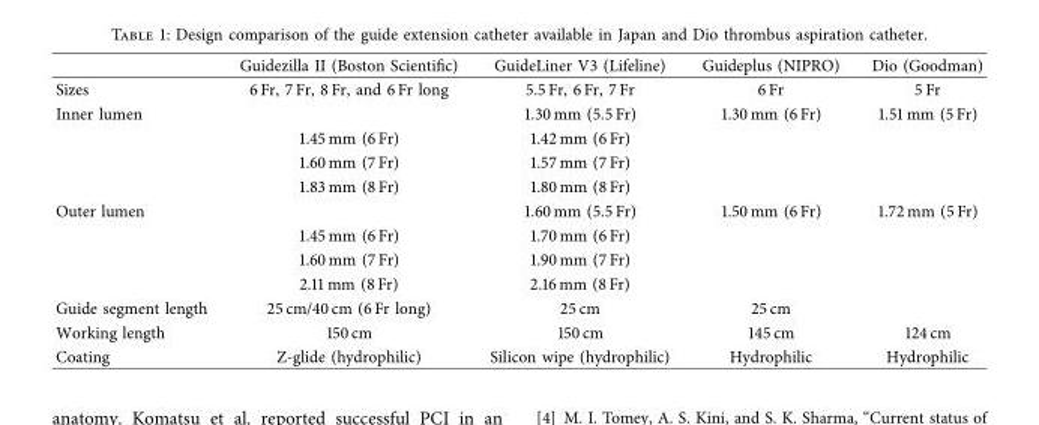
<table><thead><tr><td></td><td>Guidezilla II (Boston Scientifc)</td><td>GuideLiner V3 (Lifeline)</td><td>Guideplus (NIPRO)</td><td>Dio (Goodman)</td></tr></thead><tbody><tr><td>Sizes</td><td>6 Fr, 7 Fr, 8 Fr, and 6 Fr long</td><td>5.5 Fr, 6 Fr, 7 Fr</td><td>6 Fr</td><td>5 Fr</td></tr><tr><td rowspan="4">Inner lumen</td><td></td><td>1.30 mm (5.5 Fr)</td><td>1.30 mm (6 Fr)</td><td>1.51 mm (5 Fr)</td></tr><tr><td>1.45 mm (6 Fr)</td><td>1.42 mm (6 Fr)</td><td></td><td></td></tr><tr><td>1.60 mm (7 Fr)</td><td>1.57 mm (7 Fr)</td><td></td><td></td></tr><tr><td>1.83 mm (8 Fr)</td><td>1.80 mm (8 Fr)</td><td></td><td></td></tr><tr><td rowspan="4">Outer lumen</td><td></td><td>1.60 mm (5.5 Fr)</td><td>1.50 mm (6 Fr)</td><td>1.72 mm (5 Fr)</td></tr><tr><td>1.45 mm (6 Fr)</td><td>1.70 mm (6 Fr)</td><td></td><td></td></tr><tr><td>1.60 mm (7 Fr)</td><td>1.90 mm (7 Fr)</td><td></td><td></td></tr><tr><td>2.11 mm (8 Fr)</td><td>2.16 mm (8 Fr)</td><td></td><td></td></tr><tr><td>Guide segment length</td><td>25 cm/40 cm (6 Fr long)</td><td>25 cm</td><td>25 cm</td><td></td></tr><tr><td>Working length</td><td>150 cm</td><td>150 cm</td><td>145 cm</td><td>124 cm</td></tr><tr><td>Coating</td><td>Z-glide (hydrophilic)</td><td>Silicon wipe (hydrophilic)</td><td>Hydrophilic</td><td>Hydrophilic</td></tr></tbody></table>